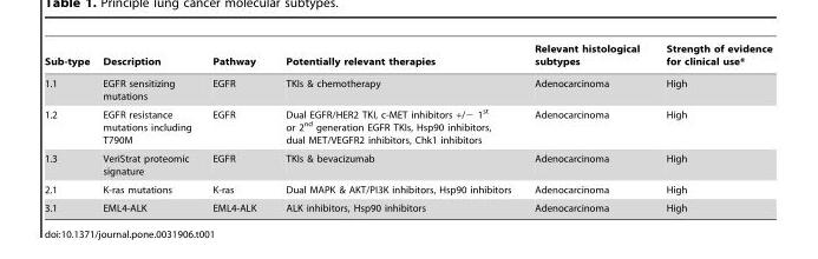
<table><thead><tr><td>Sub-type</td><td>Description</td><td>Pathway</td><td>Potentially relevant therapies</td><td>Relevant histological subtypes</td><td>Strength of evidence for clinical use*</td></tr></thead><tbody><tr><td>1.1</td><td>EGFR sensitizing mutations</td><td>EGFR</td><td>TKIs &amp; chemotherapy</td><td>Adenocarcinoma</td><td>High</td></tr><tr><td>1.2</td><td>EGFR resistance mutations including T790M</td><td>EGFR</td><td>Dual EGFR/HER2 TKI, c-MET inhibitors +/− 1<sup>st</sup> or 2<sup>nd</sup> generation EGFR TKIs, Hsp90 inhibitors, dual MET/VEGFR2 inhibitors, Chk1 inhibitors</td><td>Adenocarcinoma</td><td>High</td></tr><tr><td>1.3</td><td>VeriStrat proteomic signature</td><td>EGFR</td><td>TKIs &amp; bevacizumab</td><td>Adenocarcinoma</td><td>High</td></tr><tr><td>2.1</td><td>K-ras mutations</td><td>K-ras</td><td>Dual MAPK &amp; AKT/PI3K inhibitors, Hsp90 inhibitors</td><td>Adenocarcinoma</td><td>High</td></tr><tr><td>3.1</td><td>EML4-ALK</td><td>EML4-ALK</td><td>ALK inhibitors, Hsp90 inhibitors</td><td>Adenocarcinoma</td><td>High</td></tr></tbody></table>